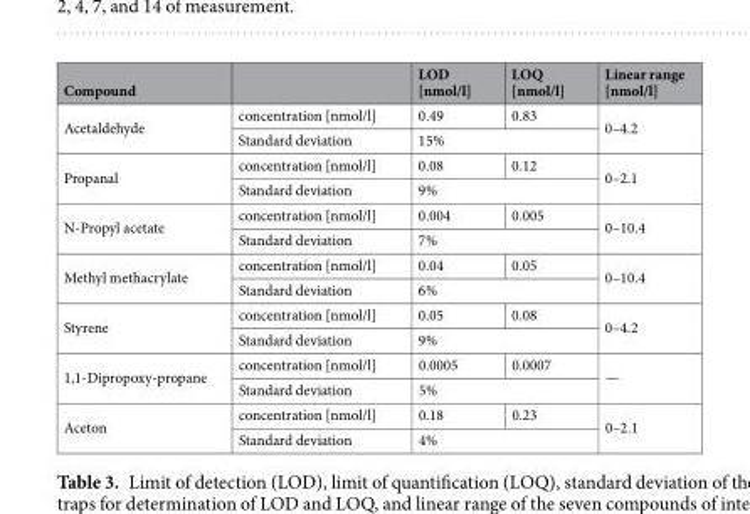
<table><thead><tr><td>Compound</td><td></td><td>LOD [nmol/l]</td><td>LOQ [nmol/l]</td><td>Linear range [nmol/l]</td></tr></thead><tbody><tr><td rowspan="2">Acetaldehyde</td><td>concentration [nmol/l]</td><td>0.49</td><td>0.83</td><td rowspan="2">0–4.2</td></tr><tr><td>Standard deviation</td><td colspan="2">15%</td></tr><tr><td rowspan="2">Propanal</td><td>concentration [nmol/l]</td><td>0.08</td><td>0.12</td><td rowspan="2">0–2.1</td></tr><tr><td>Standard deviation</td><td colspan="2">9%</td></tr><tr><td rowspan="2">N-Propyl acetate</td><td>concentration [nmol/l]</td><td>0.004</td><td>0.005</td><td rowspan="2">0–10.4</td></tr><tr><td>Standard deviation</td><td colspan="2">7%</td></tr><tr><td rowspan="2">Methyl methacrylate</td><td>concentration [nmol/l]</td><td>0.04</td><td>0.05</td><td rowspan="2">0–10.4</td></tr><tr><td>Standard deviation</td><td colspan="2">6%</td></tr><tr><td rowspan="2">Styrene</td><td>concentration [nmol/l]</td><td>0.05</td><td>0.08</td><td rowspan="2">0–4.2</td></tr><tr><td>Standard deviation</td><td colspan="2">9%</td></tr><tr><td rowspan="2">1,1-Dipropoxy-propane</td><td>concentration [nmol/l]</td><td>0.0005</td><td>0.0007</td><td rowspan="2">—</td></tr><tr><td>Standard deviation</td><td colspan="2">5%</td></tr><tr><td rowspan="2">Aceton</td><td>concentration [nmol/l]</td><td>0.18</td><td>0.23</td><td rowspan="2">0–2.1</td></tr><tr><td>Standard deviation</td><td colspan="2">4%</td></tr></tbody></table>